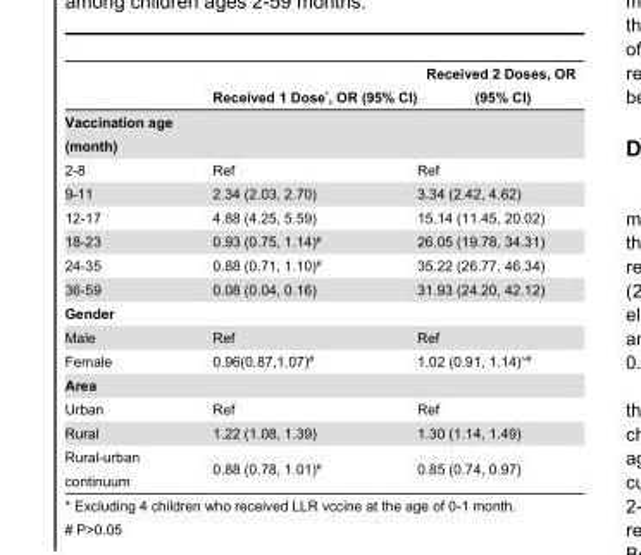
<table><thead><tr><td></td><td>Received 1 Dose*, OR (95% CI)</td><td>Received 2 Doses, OR (95% CI)</td></tr></thead><tbody><tr><td colspan="3">Vaccination age (month)</td></tr><tr><td>2-8</td><td>Ref</td><td>Ref</td></tr><tr><td>9-11</td><td>2.34 (2.03, 2.70)</td><td>3.34 (2.42, 4.62)</td></tr><tr><td>12-17</td><td>4.88 (4.25, 5.59)</td><td>15.14 (11.45, 20.02)</td></tr><tr><td>18-23</td><td>0.93 (0.75, 1.14)<sup>#</sup></td><td>26.05 (19.78, 34.31)</td></tr><tr><td>24-35</td><td>0.88 (0.71, 1.10)<sup>#</sup></td><td>35.22 (26.77, 46.34)</td></tr><tr><td>36-59</td><td>0.08 (0.04, 0.16)</td><td>31.93 (24.20, 42.12)</td></tr><tr><td colspan="3">Gender</td></tr><tr><td>Male</td><td>Ref</td><td>Ref</td></tr><tr><td>Female</td><td>0.96(0.87,1.07)<sup>#</sup></td><td>1.02 (0.91, 1.14)<sup>&gt;#</sup></td></tr><tr><td colspan="3">Area</td></tr><tr><td>Urban</td><td>Ref</td><td>Ref</td></tr><tr><td>Rural</td><td>1.22 (1.08, 1.39)</td><td>1.30 (1.14, 1.49)</td></tr><tr><td>Rural-urban continuum</td><td>0.88 (0.78, 1.01)<sup>#</sup></td><td>0.85 (0.74, 0.97)</td></tr></tbody></table>